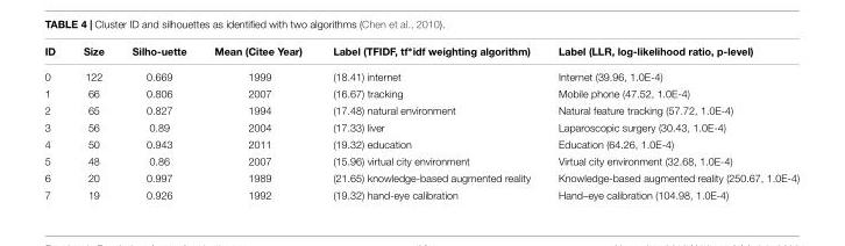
<table><thead><tr><td>ID</td><td>Size</td><td>Silho-uette</td><td>Mean (Citee Year)</td><td>Label (TFIDF, tf∗idf weighting algorithm)</td><td>Label (LLR, log-likelihood ratio, p-level)</td></tr></thead><tbody><tr><td>0</td><td>122</td><td>0.669</td><td>1999</td><td>(18.41) internet</td><td>Internet (39.96, 1.0E-4)</td></tr><tr><td>1</td><td>66</td><td>0.806</td><td>2007</td><td>(16.67) tracking</td><td>Mobile phone (47.52, 1.0E-4)</td></tr><tr><td>2</td><td>65</td><td>0.827</td><td>1994</td><td>(17.48) natural environment</td><td>Natural feature tracking (57.72, 1.0E-4)</td></tr><tr><td>3</td><td>56</td><td>0.89</td><td>2004</td><td>(17.33) liver</td><td>Laparoscopic surgery (30.43, 1.0E-4)</td></tr><tr><td>4</td><td>50</td><td>0.943</td><td>2011</td><td>(19.32) education</td><td>Education (64.26, 1.0E-4)</td></tr><tr><td>5</td><td>48</td><td>0.86</td><td>2007</td><td>(15.96) virtual city environment</td><td>Virtual city environment (32.68, 1.0E-4)</td></tr><tr><td>6</td><td>20</td><td>0.997</td><td>1989</td><td>(21.65) knowledge-based augmented reality</td><td>Knowledge-based augmented reality (250.67, 1.0E-4)</td></tr><tr><td>7</td><td>19</td><td>0.926</td><td>1992</td><td>(19.32) hand-eye calibration</td><td>Hand–eye calibration (104.98, 1.0E-4)</td></tr></tbody></table>